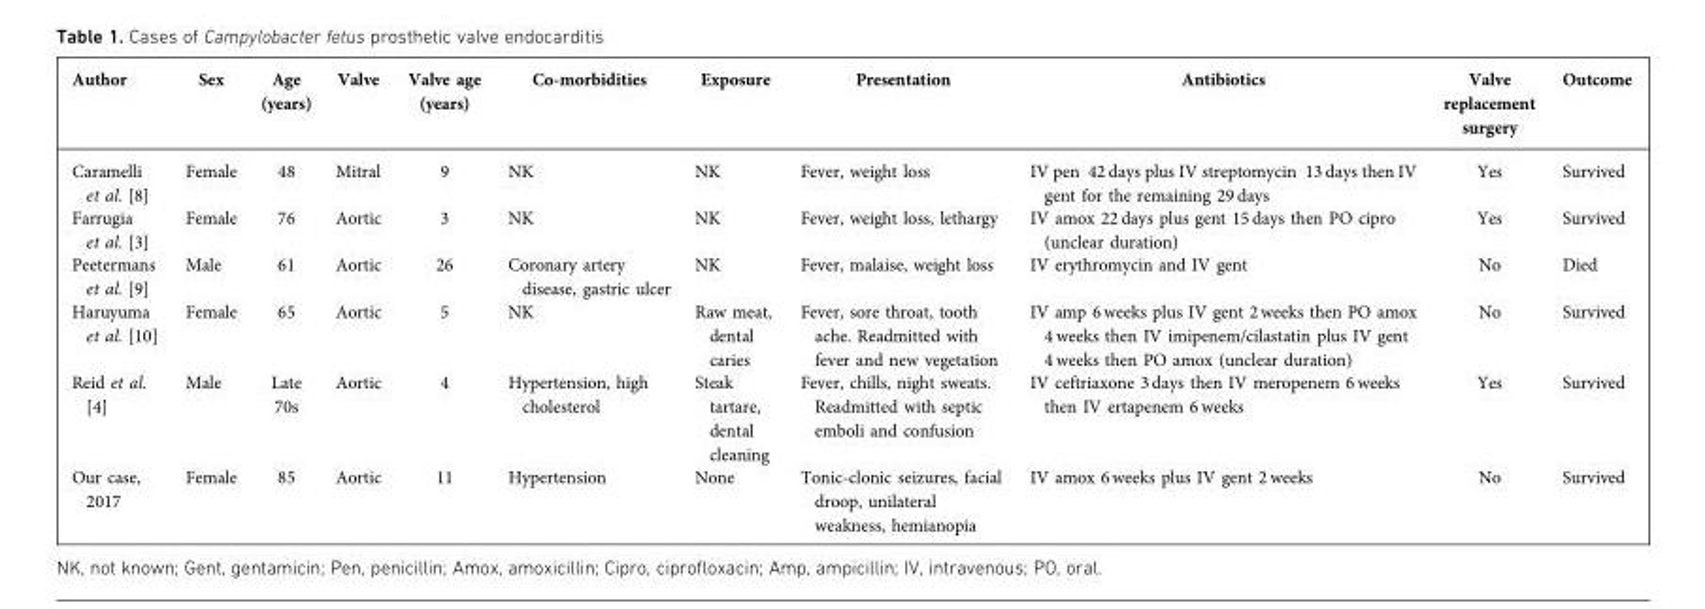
<table><thead><tr><td>Author</td><td>Sex</td><td>Age (years)</td><td>Valve</td><td>Valve age (years)</td><td>Co-morbidities</td><td>Exposure</td><td>Presentation</td><td>Antibiotics</td><td>Valve replacement surgery</td><td>Outcome</td></tr></thead><tbody><tr><td>Caramelli et al. [8]</td><td>Female</td><td>48</td><td>Mitral</td><td>9</td><td>NK</td><td>NK</td><td>Fever, weight loss</td><td>IV pen 42 days plus IV streptomycin 13 days then IV gent for the remaining 29 days</td><td>Yes</td><td>Survived</td></tr><tr><td>Farrugia et al. [3]</td><td>Female</td><td>76</td><td>Aortic</td><td>3</td><td>NK</td><td>NK</td><td>Fever, weight loss, lethargy</td><td>IV amox 22 days plus gent 15 days then PO cipro (unclear duration)</td><td>Yes</td><td>Survived</td></tr><tr><td>Peetermans et al. [9]</td><td>Male</td><td>61</td><td>Aortic</td><td>26</td><td>Coronary artery disease, gastric ulcer</td><td>NK</td><td>Fever, malaise, weight loss</td><td>IV erythromycin and IV gent</td><td>No</td><td>Died</td></tr><tr><td>Haruyuma et al. [10]</td><td>Female</td><td>65</td><td>Aortic</td><td>5</td><td>NK</td><td>Raw meat, dental caries</td><td>Fever, sore throat, tooth ache. Readmitted with fever and new vegetation</td><td>IV amp 6 weeks plus IV gent 2 weeks then PO amox 4 weeks then IV imipenem/cilastatin plus IV gent 4 weeks then PO amox (unclear duration)</td><td>No</td><td>Survived</td></tr><tr><td>Reid et al. [4]</td><td>Male</td><td>Late 70s</td><td>Aortic</td><td>4</td><td>Hypertension, high cholesterol</td><td>Steak tartare, dental cleaning</td><td>Fever, chills, night sweats. Readmitted with septic emboli and confusion</td><td>IV ceftriaxone 3 days then IV meropenem 6 weeks then IV ertapenem 6 weeks</td><td>Yes</td><td>Survived</td></tr><tr><td>Our case, 2017</td><td>Female</td><td>85</td><td>Aortic</td><td>11</td><td>Hypertension</td><td>None</td><td>Tonic-clonic seizures, facial droop, unilateral weakness, hemianopia</td><td>IV amox 6 weeks plus IV gent 2 weeks</td><td>No</td><td>Survived</td></tr></tbody></table>